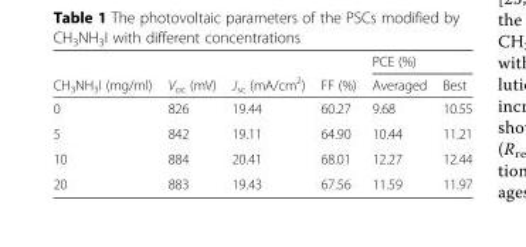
<table><thead><tr><td rowspan="2">CH<sub>3</sub>NH<sub>3</sub>I (mg/ml)</td><td rowspan="2">V<sub>oc</sub> (mV)</td><td rowspan="2">J<sub>sc</sub> (mA/cm<sup>2</sup>)</td><td rowspan="2">FF (%)</td><td colspan="2">PCE (%)</td></tr><tr><td>Averaged</td><td>Best</td></tr></thead><tbody><tr><td>0</td><td>826</td><td>19.44</td><td>60.27</td><td>9.68</td><td>10.55</td></tr><tr><td>5</td><td>842</td><td>19.11</td><td>64.90</td><td>10.44</td><td>11.21</td></tr><tr><td>10</td><td>884</td><td>20.41</td><td>68.01</td><td>12.27</td><td>12.44</td></tr><tr><td>20</td><td>883</td><td>19.43</td><td>67.56</td><td>11.59</td><td>11.97</td></tr></tbody></table>